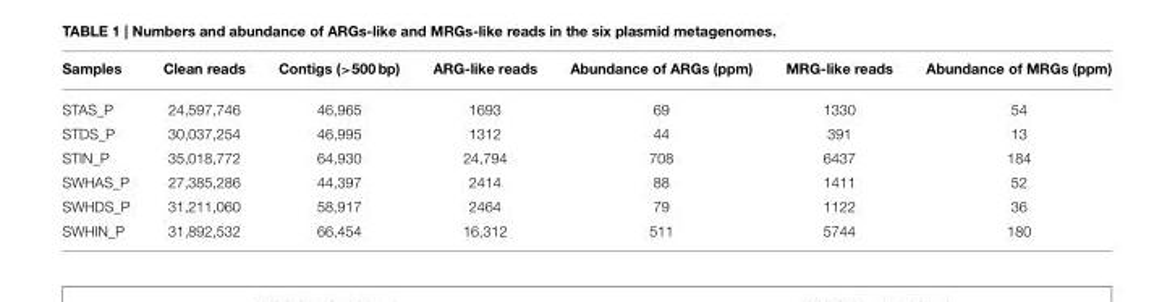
<table><thead><tr><td>Samples</td><td>Clean reads</td><td>Contigs (&gt;500 bp)</td><td>ARG-like reads</td><td>Abundance of ARGs (ppm)</td><td>MRG-like reads</td><td>Abundance of MRGs (ppm)</td></tr></thead><tbody><tr><td>STAS_P</td><td>24,597,746</td><td>46,965</td><td>1693</td><td>69</td><td>1330</td><td>54</td></tr><tr><td>STDS_P</td><td>30,037,254</td><td>46,995</td><td>1312</td><td>44</td><td>391</td><td>13</td></tr><tr><td>STIN_P</td><td>35,018,772</td><td>64,930</td><td>24,794</td><td>708</td><td>6437</td><td>184</td></tr><tr><td>SWHAS_P</td><td>27,385,286</td><td>44,397</td><td>2414</td><td>88</td><td>1411</td><td>52</td></tr><tr><td>SWHDS_P</td><td>31,211,060</td><td>58,917</td><td>2464</td><td>79</td><td>1122</td><td>36</td></tr><tr><td>SWHIN_P</td><td>31,892,532</td><td>66,454</td><td>16,312</td><td>511</td><td>5744</td><td>180</td></tr></tbody></table>